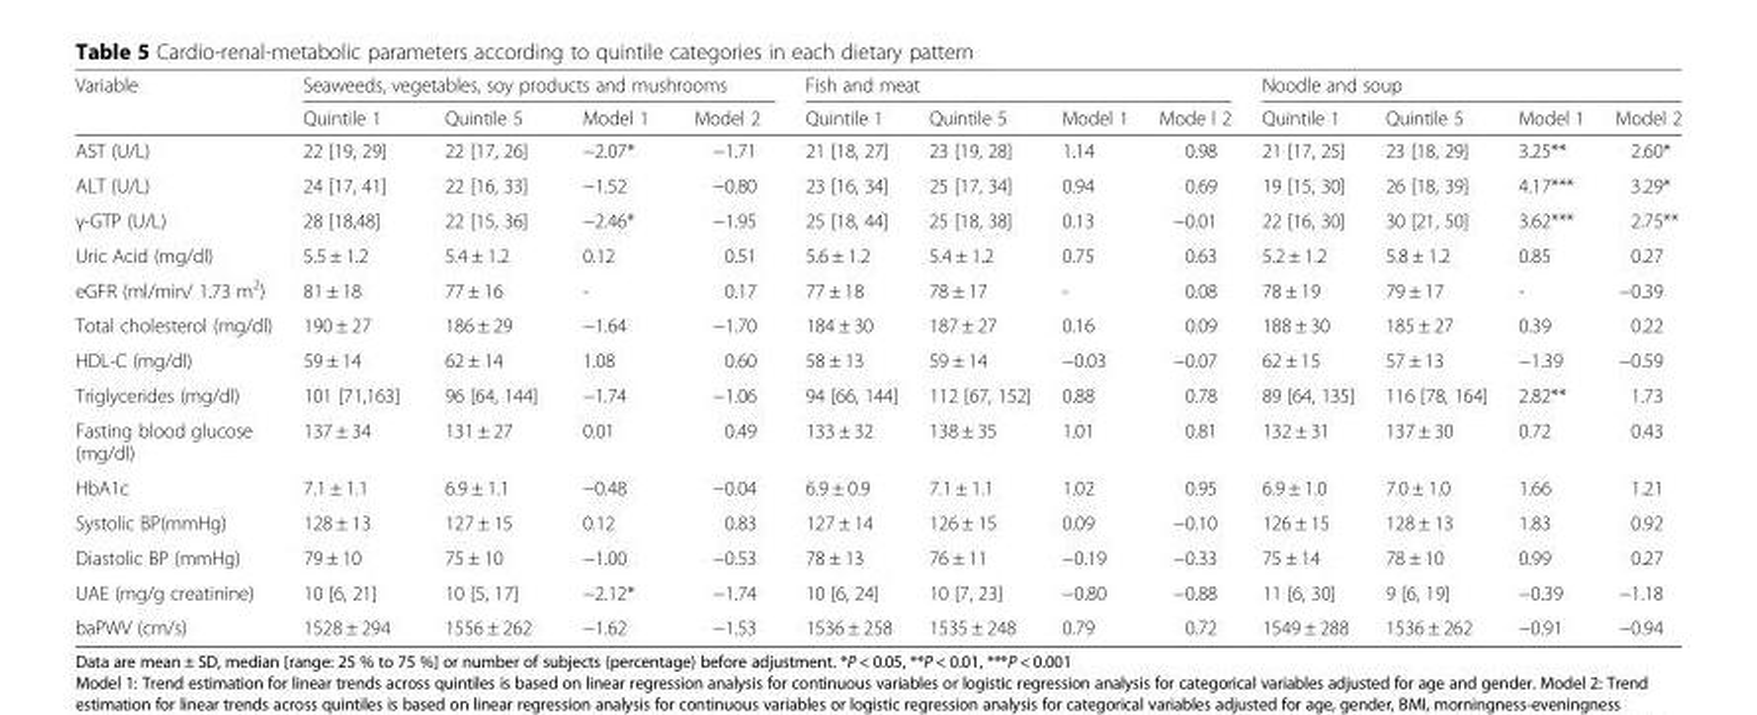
<table><thead><tr><td rowspan="2">Variable</td><td colspan="4">Seaweeds, vegetables, soy products and mushrooms</td><td colspan="4">Fish and meat</td><td colspan="4">Noodle and soup</td></tr><tr><td>Quintile 1</td><td>Quintile 5</td><td>Model 1</td><td>Model 2</td><td>Quintile 1</td><td>Quintile 5</td><td>Model 1</td><td>Mode l 2</td><td>Quintile 1</td><td>Quintile 5</td><td>Model 1</td><td>Model 2</td></tr></thead><tbody><tr><td>AST (U/L)</td><td>22 [19, 29]</td><td>22 [17, 26]</td><td>−2.07*</td><td>−1.71</td><td>21 [18, 27]</td><td>23 [19, 28]</td><td>1.14</td><td>0.98</td><td>21 [17, 25]</td><td>23 [18, 29]</td><td>3.25**</td><td>2.60*</td></tr><tr><td>ALT (U/L)</td><td>24 [17, 41]</td><td>22 [16, 33]</td><td>−1.52</td><td>−0.80</td><td>23 [16, 34]</td><td>25 [17, 34]</td><td>0.94</td><td>0.69</td><td>19 [15, 30]</td><td>26 [18, 39]</td><td>4.17***</td><td>3.29*</td></tr><tr><td>γ-GTP (U/L)</td><td>28 [18,48]</td><td>22 [15, 36]</td><td>−2.46*</td><td>−1.95</td><td>25 [18, 44]</td><td>25 [18, 38]</td><td>0.13</td><td>−0.01</td><td>22 [16, 30]</td><td>30 [21, 50]</td><td>3.62***</td><td>2.75**</td></tr><tr><td>Uric Acid (mg/dl)</td><td>5.5 ± 1.2</td><td>5.4 ± 1.2</td><td>0.12</td><td>0.51</td><td>5.6 ± 1.2</td><td>5.4 ± 1.2</td><td>0.75</td><td>0.63</td><td>5.2 ± 1.2</td><td>5.8 ± 1.2</td><td>0.85</td><td>0.27</td></tr><tr><td>eGFR (ml/min/ 1.73 m<sup>2</sup>)</td><td>81 ± 18</td><td>77 ± 16</td><td>-</td><td>0.17</td><td>77 ± 18</td><td>78 ± 17</td><td>-</td><td>0.08</td><td>78 ± 19</td><td>79 ± 17</td><td>-</td><td>−0.39</td></tr><tr><td>Total cholesterol (mg/dl)</td><td>190 ± 27</td><td>186 ± 29</td><td>−1.64</td><td>−1.70</td><td>184 ± 30</td><td>187 ± 27</td><td>0.16</td><td>0.09</td><td>188 ± 30</td><td>185 ± 27</td><td>0.39</td><td>0.22</td></tr><tr><td>HDL-C (mg/dl)</td><td>59 ± 14</td><td>62 ± 14</td><td>1.08</td><td>0.60</td><td>58 ± 13</td><td>59 ± 14</td><td>−0.03</td><td>−0.07</td><td>62 ± 15</td><td>57 ± 13</td><td>−1.39</td><td>−0.59</td></tr><tr><td>Triglycerides (mg/dl)</td><td>101 [71,163]</td><td>96 [64, 144]</td><td>−1.74</td><td>−1.06</td><td>94 [66, 144]</td><td>112 [67, 152]</td><td>0.88</td><td>0.78</td><td>89 [64, 135]</td><td>116 [78, 164]</td><td>2.82**</td><td>1.73</td></tr><tr><td>Fasting blood glucose (mg/dl)</td><td>137 ± 34</td><td>131 ± 27</td><td>0.01</td><td>0.49</td><td>133 ± 32</td><td>138 ± 35</td><td>1.01</td><td>0.81</td><td>132 ± 31</td><td>137 ± 30</td><td>0.72</td><td>0.43</td></tr><tr><td>HbA1c</td><td>7.1 ± 1.1</td><td>6.9 ± 1.1</td><td>−0.48</td><td>−0.04</td><td>6.9 ± 0.9</td><td>7.1 ± 1.1</td><td>1.02</td><td>0.95</td><td>6.9 ± 1.0</td><td>7.0 ± 1.0</td><td>1.66</td><td>1.21</td></tr><tr><td>Systolic BP(mmHg)</td><td>128 ± 13</td><td>127 ± 15</td><td>0.12</td><td>0.83</td><td>127 ± 14</td><td>126 ± 15</td><td>0.09</td><td>−0.10</td><td>126 ± 15</td><td>128 ± 13</td><td>1.83</td><td>0.92</td></tr><tr><td>Diastolic BP (mmHg)</td><td>79 ± 10</td><td>75 ± 10</td><td>−1.00</td><td>−0.53</td><td>78 ± 13</td><td>76 ± 11</td><td>−0.19</td><td>−0.33</td><td>75 ± 14</td><td>78 ± 10</td><td>0.99</td><td>0.27</td></tr><tr><td>UAE (mg/g creatinine)</td><td>10 [6, 21]</td><td>10 [5, 17]</td><td>−2.12*</td><td>−1.74</td><td>10 [6, 24]</td><td>10 [7, 23]</td><td>−0.80</td><td>−0.88</td><td>11 [6, 30]</td><td>9 [6, 19]</td><td>−0.39</td><td>−1.18</td></tr><tr><td>baPWV (cm/s)</td><td>1528 ± 294</td><td>1556 ± 262</td><td>−1.62</td><td>−1.53</td><td>1536 ± 258</td><td>1535 ± 248</td><td>0.79</td><td>0.72</td><td>1549 ± 288</td><td>1536 ± 262</td><td>−0.91</td><td>−0.94</td></tr></tbody></table>